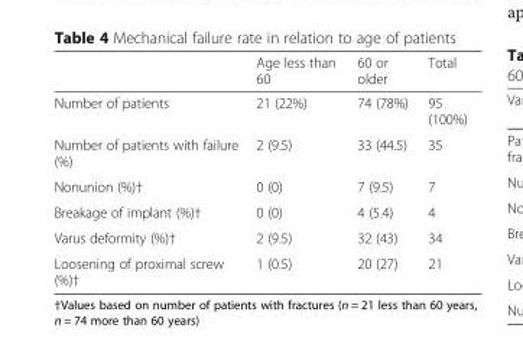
<table><thead><tr><td></td><td>Age less than 60</td><td>60 or older</td><td>Total</td></tr></thead><tbody><tr><td>Number of patients</td><td>21 (22%)</td><td>74 (78%)</td><td>95 (100%)</td></tr><tr><td>Number of patients with failure (%)</td><td>2 (9.5)</td><td>33 (44.5)</td><td>35</td></tr><tr><td>Nonunion (%)†</td><td>0 (0)</td><td>7 (9.5)</td><td>7</td></tr><tr><td>Breakage of implant (%)†</td><td>0 (0)</td><td>4 (5.4)</td><td>4</td></tr><tr><td>Varus deformity (%)†</td><td>2 (9.5)</td><td>32 (43)</td><td>34</td></tr><tr><td>Loosening of proximal screw (%)†</td><td>1 (0.5)</td><td>20 (27)</td><td>21</td></tr></tbody></table>